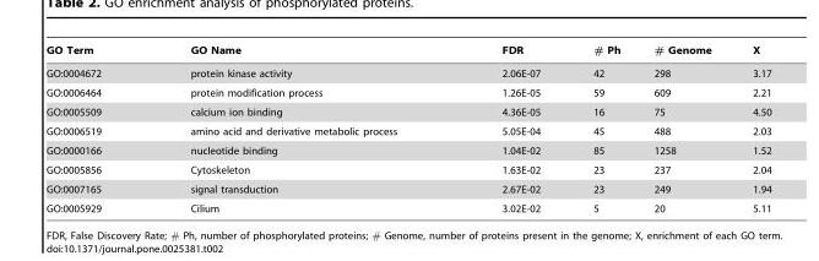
<table><thead><tr><td>GO Term</td><td>GO Name</td><td>FDR</td><td># Ph</td><td># Genome</td><td>X</td></tr></thead><tbody><tr><td>GO:0004672</td><td>protein kinase activity</td><td>2.06E-07</td><td>42</td><td>298</td><td>3.17</td></tr><tr><td>GO:0006464</td><td>protein modification process</td><td>1.26E-05</td><td>59</td><td>609</td><td>2.21</td></tr><tr><td>GO:0005509</td><td>calcium ion binding</td><td>4.36E-05</td><td>16</td><td>75</td><td>4.50</td></tr><tr><td>GO:0006519</td><td>amino acid and derivative metabolic process</td><td>5.05E-04</td><td>45</td><td>488</td><td>2.03</td></tr><tr><td>GO:0000166</td><td>nucleotide binding</td><td>1.04E-02</td><td>85</td><td>1258</td><td>1.52</td></tr><tr><td>GO:0005856</td><td>Cytoskeleton</td><td>1.63E-02</td><td>23</td><td>237</td><td>2.04</td></tr><tr><td>GO:0007165</td><td>signal transduction</td><td>2.67E-02</td><td>23</td><td>249</td><td>1.94</td></tr><tr><td>GO:0005929</td><td>Cilium</td><td>3.02E-02</td><td>5</td><td>20</td><td>5.11</td></tr></tbody></table>